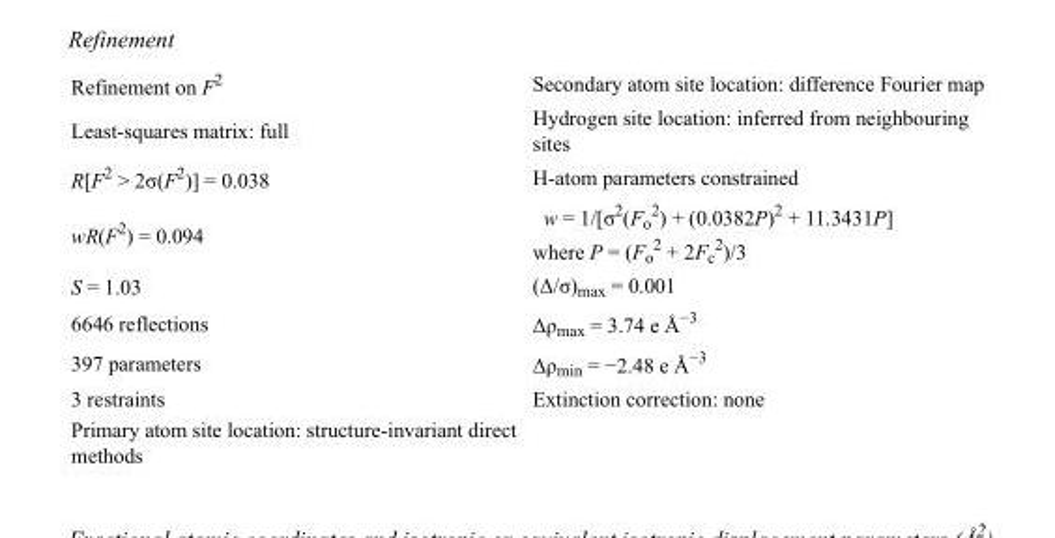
<table><tbody><tr><td>Refinement on F<sup>2</sup></td><td>Secondary atom site location: difference Fourier map</td></tr><tr><td>Least-squares matrix: full</td><td>Hydrogen site location: inferred from neighbouring sites</td></tr><tr><td>R[F<sup>2</sup> &gt; 2σ(F<sup>2</sup>)] = 0.038</td><td>H-atom parameters constrained</td></tr><tr><td>wR(F<sup>2</sup>) = 0.094</td><td>w = 1/[σ<sup>2</sup>(F<sub>o</sub> <sup>2</sup>) + (0.0382P)<sup>2</sup> + 11.3431P] where P = (F<sub>o</sub> <sup>2</sup> + 2F<sub>c</sub> <sup>2</sup>)/3</td></tr><tr><td>S = 1.03</td><td>(Δ/σ)<sub>max</sub> = 0.001</td></tr><tr><td>6646 reflections</td><td>Δρ<sub>max</sub> = 3.74 e Å<sup>−3</sup></td></tr><tr><td>397 parameters</td><td>Δρ<sub>min</sub> = −2.48 e Å<sup>−3</sup></td></tr><tr><td>3 restraints</td><td>Extinction correction: none</td></tr><tr><td>Primary atom site location: structure-invariant direct methods</td><td></td></tr></tbody></table>